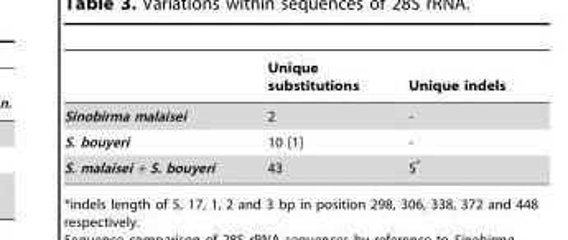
<table><thead><tr><td></td><td>Unique substitutions</td><td>Unique indels</td></tr></thead><tbody><tr><td>Sinobirma malaisei</td><td>2</td><td>-</td></tr><tr><td>S. bouyeri</td><td>10 [1]</td><td>-</td></tr><tr><td>S. malaisei + S. bouyeri</td><td>43</td><td>5*</td></tr></tbody></table>